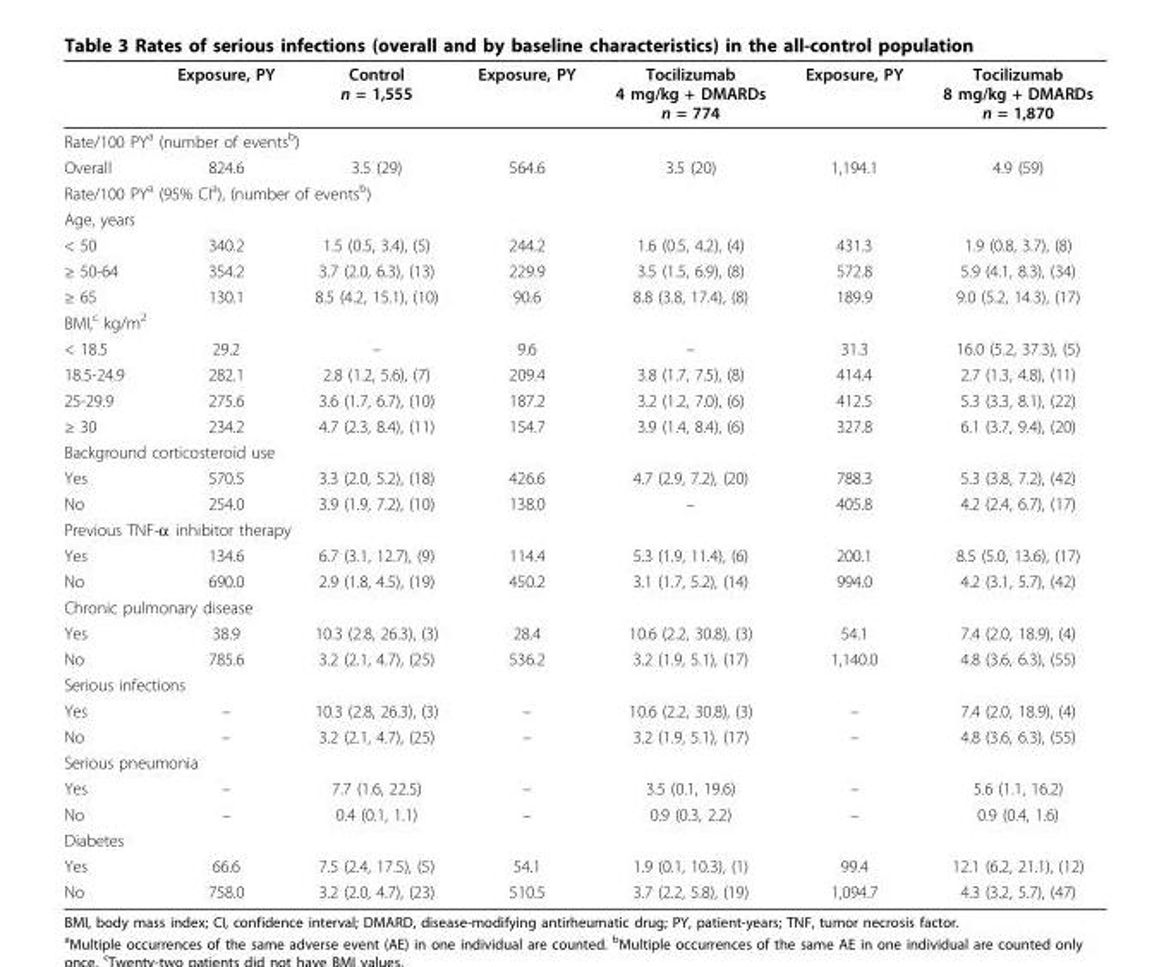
<table><thead><tr><td></td><td>Exposure, PY</td><td>Control n = 1,555</td><td>Exposure, PY</td><td>Tocilizumab 4 mg/kg + DMARDs n = 774</td><td>Exposure, PY</td><td>Tocilizumab 8 mg/kg + DMARDs n = 1,870</td></tr></thead><tbody><tr><td colspan="7">Rate/100 PY<sup>a</sup> (number of events<sup>b</sup>)</td></tr><tr><td>Overall</td><td>824.6</td><td>3.5 (29)</td><td>564.6</td><td>3.5 (20)</td><td>1,194.1</td><td>4.9 (59)</td></tr><tr><td colspan="7">Rate/100 PY<sup>a</sup> (95% CI<sup>a</sup>), (number of events<sup>b</sup>)</td></tr><tr><td colspan="7">Age, years</td></tr><tr><td>&lt; 50</td><td>340.2</td><td>1.5 (0.5, 3.4), (5)</td><td>244.2</td><td>1.6 (0.5, 4.2), (4)</td><td>431.3</td><td>1.9 (0.8, 3.7), (8)</td></tr><tr><td>≥ 50-64</td><td>354.2</td><td>3.7 (2.0, 6.3), (13)</td><td>229.9</td><td>3.5 (1.5, 6.9), (8)</td><td>572.8</td><td>5.9 (4.1, 8.3), (34)</td></tr><tr><td>≥ 65</td><td>130.1</td><td>8.5 (4.2, 15.1), (10)</td><td>90.6</td><td>8.8 (3.8, 17.4), (8)</td><td>189.9</td><td>9.0 (5.2, 14.3), (17)</td></tr><tr><td colspan="7">BMI,<sup>c</sup> kg/m<sup>2</sup></td></tr><tr><td>&lt; 18.5</td><td>29.2</td><td>–</td><td>9.6</td><td>–</td><td>31.3</td><td>16.0 (5.2, 37.3), (5)</td></tr><tr><td>18.5-24.9</td><td>282.1</td><td>2.8 (1.2, 5.6), (7)</td><td>209.4</td><td>3.8 (1.7, 7.5), (8)</td><td>414.4</td><td>2.7 (1.3, 4.8), (11)</td></tr><tr><td>25-29.9</td><td>275.6</td><td>3.6 (1.7, 6.7), (10)</td><td>187.2</td><td>3.2 (1.2, 7.0), (6)</td><td>412.5</td><td>5.3 (3.3, 8.1), (22)</td></tr><tr><td>≥ 30</td><td>234.2</td><td>4.7 (2.3, 8.4), (11)</td><td>154.7</td><td>3.9 (1.4, 8.4), (6)</td><td>327.8</td><td>6.1 (3.7, 9.4), (20)</td></tr><tr><td colspan="7">Background corticosteroid use</td></tr><tr><td>Yes</td><td>570.5</td><td>3.3 (2.0, 5.2), (18)</td><td>426.6</td><td>4.7 (2.9, 7.2), (20)</td><td>788.3</td><td>5.3 (3.8, 7.2), (42)</td></tr><tr><td>No</td><td>254.0</td><td>3.9 (1.9, 7.2), (10)</td><td>138.0</td><td>–</td><td>405.8</td><td>4.2 (2.4, 6.7), (17)</td></tr><tr><td colspan="7">Previous TNF-α inhibitor therapy</td></tr><tr><td>Yes</td><td>134.6</td><td>6.7 (3.1, 12.7), (9)</td><td>114.4</td><td>5.3 (1.9, 11.4), (6)</td><td>200.1</td><td>8.5 (5.0, 13.6), (17)</td></tr><tr><td>No</td><td>690.0</td><td>2.9 (1.8, 4.5), (19)</td><td>450.2</td><td>3.1 (1.7, 5.2), (14)</td><td>994.0</td><td>4.2 (3.1, 5.7), (42)</td></tr><tr><td colspan="7">Chronic pulmonary disease</td></tr><tr><td>Yes</td><td>38.9</td><td>10.3 (2.8, 26.3), (3)</td><td>28.4</td><td>10.6 (2.2, 30.8), (3)</td><td>54.1</td><td>7.4 (2.0, 18.9), (4)</td></tr><tr><td>No</td><td>785.6</td><td>3.2 (2.1, 4.7), (25)</td><td>536.2</td><td>3.2 (1.9, 5.1), (17)</td><td>1,140.0</td><td>4.8 (3.6, 6.3), (55)</td></tr><tr><td colspan="7">Serious infections</td></tr><tr><td>Yes</td><td>–</td><td>10.3 (2.8, 26.3), (3)</td><td>–</td><td>10.6 (2.2, 30.8), (3)</td><td>–</td><td>7.4 (2.0, 18.9), (4)</td></tr><tr><td>No</td><td>–</td><td>3.2 (2.1, 4.7), (25)</td><td>–</td><td>3.2 (1.9, 5.1), (17)</td><td>–</td><td>4.8 (3.6, 6.3), (55)</td></tr><tr><td colspan="7">Serious pneumonia</td></tr><tr><td>Yes</td><td>–</td><td>7.7 (1.6, 22.5)</td><td>–</td><td>3.5 (0.1, 19.6)</td><td>–</td><td>5.6 (1.1, 16.2)</td></tr><tr><td>No</td><td>–</td><td>0.4 (0.1, 1.1)</td><td>–</td><td>0.9 (0.3, 2.2)</td><td>–</td><td>0.9 (0.4, 1.6)</td></tr><tr><td colspan="7">Diabetes</td></tr><tr><td>Yes</td><td>66.6</td><td>7.5 (2.4, 17.5), (5)</td><td>54.1</td><td>1.9 (0.1, 10.3), (1)</td><td>99.4</td><td>12.1 (6.2, 21.1), (12)</td></tr><tr><td>No</td><td>758.0</td><td>3.2 (2.0, 4.7), (23)</td><td>510.5</td><td>3.7 (2.2, 5.8), (19)</td><td>1,094.7</td><td>4.3 (3.2, 5.7), (47)</td></tr></tbody></table>